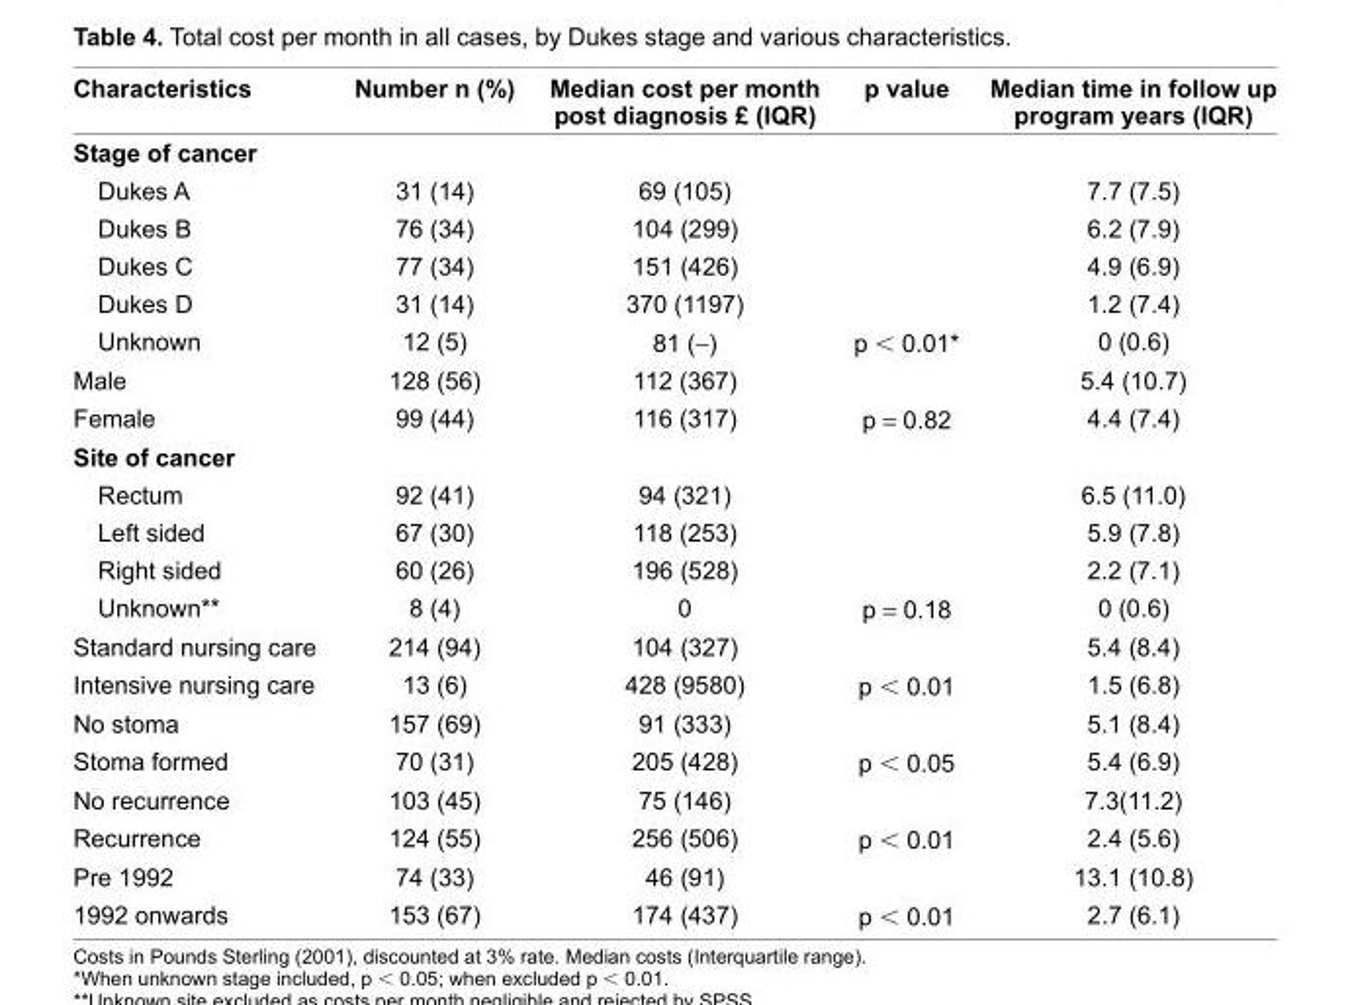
<table><thead><tr><td>Characteristics</td><td>Number n (%)</td><td>Median cost per month post diagnosis £ (IQR)</td><td>p value</td><td>Median time in follow up program years (IQR)</td></tr></thead><tbody><tr><td colspan="5">Stage of cancer</td></tr><tr><td>Dukes A</td><td>31 (14)</td><td>69 (105)</td><td></td><td>7.7 (7.5)</td></tr><tr><td>Dukes B</td><td>76 (34)</td><td>104 (299)</td><td></td><td>6.2 (7.9)</td></tr><tr><td>Dukes C</td><td>77 (34)</td><td>151 (426)</td><td></td><td>4.9 (6.9)</td></tr><tr><td>Dukes D</td><td>31 (14)</td><td>370 (1197)</td><td></td><td>1.2 (7.4)</td></tr><tr><td>Unknown</td><td>12 (5)</td><td>81 (−)</td><td>p &lt; 0.01*</td><td>0 (0.6)</td></tr><tr><td>Male</td><td>128 (56)</td><td>112 (367)</td><td></td><td>5.4 (10.7)</td></tr><tr><td>Female</td><td>99 (44)</td><td>116 (317)</td><td>p = 0.82</td><td>4.4 (7.4)</td></tr><tr><td colspan="5">Site of cancer</td></tr><tr><td>Rectum</td><td>92 (41)</td><td>94 (321)</td><td></td><td>6.5 (11.0)</td></tr><tr><td>Left sided</td><td>67 (30)</td><td>118 (253)</td><td></td><td>5.9 (7.8)</td></tr><tr><td>Right sided</td><td>60 (26)</td><td>196 (528)</td><td></td><td>2.2 (7.1)</td></tr><tr><td>Unknown**</td><td>8 (4)</td><td>0</td><td>p = 0.18</td><td>0 (0.6)</td></tr><tr><td>Standard nursing care</td><td>214 (94)</td><td>104 (327)</td><td></td><td>5.4 (8.4)</td></tr><tr><td>Intensive nursing care</td><td>13 (6)</td><td>428 (9580)</td><td>p &lt; 0.01</td><td>1.5 (6.8)</td></tr><tr><td>No stoma</td><td>157 (69)</td><td>91 (333)</td><td></td><td>5.1 (8.4)</td></tr><tr><td>Stoma formed</td><td>70 (31)</td><td>205 (428)</td><td>p &lt; 0.05</td><td>5.4 (6.9)</td></tr><tr><td>No recurrence</td><td>103 (45)</td><td>75 (146)</td><td></td><td>7.3(11.2)</td></tr><tr><td>Recurrence</td><td>124 (55)</td><td>256 (506)</td><td>p &lt; 0.01</td><td>2.4 (5.6)</td></tr><tr><td>Pre 1992</td><td>74 (33)</td><td>46 (91)</td><td></td><td>13.1 (10.8)</td></tr><tr><td>1992 onwards</td><td>153 (67)</td><td>174 (437)</td><td>p &lt; 0.01</td><td>2.7 (6.1)</td></tr></tbody></table>